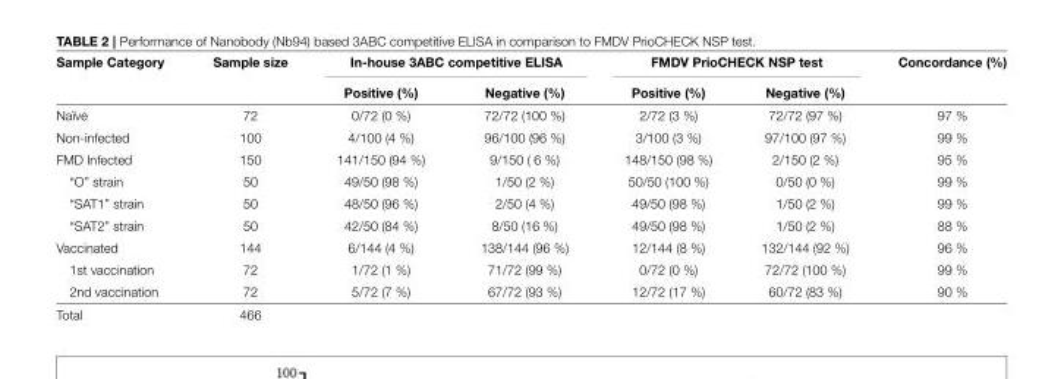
<table><thead><tr><td rowspan="2">Sample Category</td><td rowspan="2">Sample size</td><td colspan="2">In-house 3ABC competitive ELISA</td><td colspan="2">FMDV PrioCHECK NSP test</td><td rowspan="2">Concordance (%)</td></tr><tr><td>Positive (%)</td><td>Negative (%)</td><td>Positive (%)</td><td>Negative (%)</td></tr></thead><tbody><tr><td>Naïve</td><td>72</td><td>0/72 (0 %)</td><td>72/72 (100 %)</td><td>2/72 (3 %)</td><td>72/72 (97 %)</td><td>97 %</td></tr><tr><td>Non-infected</td><td>100</td><td>4/100 (4 %)</td><td>96/100 (96 %)</td><td>3/100 (3 %)</td><td>97/100 (97 %)</td><td>99 %</td></tr><tr><td>FMD Infected</td><td>150</td><td>141/150 (94 %)</td><td>9/150 ( 6 %)</td><td>148/150 (98 %)</td><td>2/150 (2 %)</td><td>95 %</td></tr><tr><td>“O” strain</td><td>50</td><td>49/50 (98 %)</td><td>1/50 (2 %)</td><td>50/50 (100 %)</td><td>0/50 (0 %)</td><td>99 %</td></tr><tr><td>“SAT1” strain</td><td>50</td><td>48/50 (96 %)</td><td>2/50 (4 %)</td><td>49/50 (98 %)</td><td>1/50 (2 %)</td><td>99 %</td></tr><tr><td>“SAT2” strain</td><td>50</td><td>42/50 (84 %)</td><td>8/50 (16 %)</td><td>49/50 (98 %)</td><td>1/50 (2 %)</td><td>88 %</td></tr><tr><td>Vaccinated</td><td>144</td><td>6/144 (4 %)</td><td>138/144 (96 %)</td><td>12/144 (8 %)</td><td>132/144 (92 %)</td><td>96 %</td></tr><tr><td>1st vaccination</td><td>72</td><td>1/72 (1 %)</td><td>71/72 (99 %)</td><td>0/72 (0 %)</td><td>72/72 (100 %)</td><td>99 %</td></tr><tr><td>2nd vaccination</td><td>72</td><td>5/72 (7 %)</td><td>67/72 (93 %)</td><td>12/72 (17 %)</td><td>60/72 (83 %)</td><td>90 %</td></tr><tr><td>Total</td><td>466</td><td></td><td></td><td></td><td></td><td></td></tr></tbody></table>